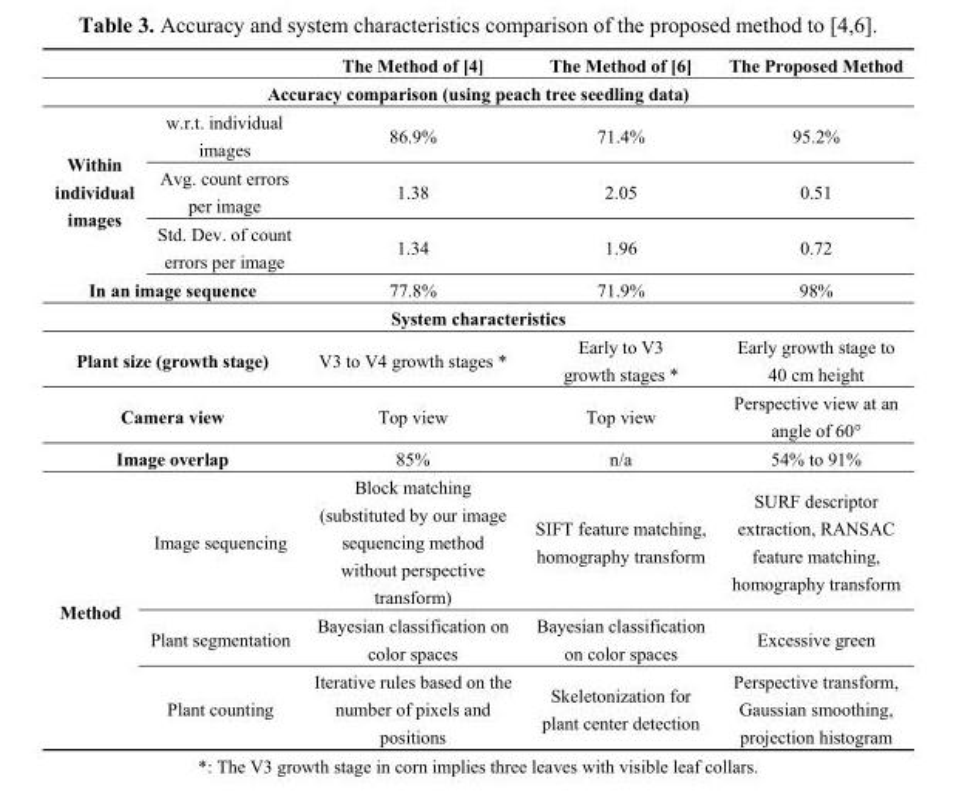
<table><thead><tr><td></td><td></td><td>The Method of [4]</td><td>The Method of [6]</td><td>The Proposed Method</td></tr></thead><tbody><tr><td colspan="5">Accuracy comparison (using peach tree seedling data)</td></tr><tr><td rowspan="3">Within individual images</td><td>w.r.t. individual images</td><td>86.9%</td><td>71.4%</td><td>95.2%</td></tr><tr><td>Avg. count errors per image</td><td>1.38</td><td>2.05</td><td>0.51</td></tr><tr><td>Std. Dev. of count errors per image</td><td>1.34</td><td>1.96</td><td>0.72</td></tr><tr><td colspan="2">In an image sequence</td><td>77.8%</td><td>71.9%</td><td>98%</td></tr><tr><td colspan="5">System characteristics</td></tr><tr><td colspan="2">Plant size (growth stage)</td><td>V3 to V4 growth stages *</td><td>Early to V3 growth stages *</td><td>Early growth stage to 40 cm height</td></tr><tr><td colspan="2">Camera view</td><td>Top view</td><td>Top view</td><td>Perspective view at an angle of 60°</td></tr><tr><td colspan="2">Image overlap</td><td>85%</td><td>n/a</td><td>54% to 91%</td></tr><tr><td rowspan="3">Method</td><td>Image sequencing</td><td>Block matching (substituted by our image sequencing method without perspective transform)</td><td>SIFT feature matching, homography transform</td><td>SURF descriptor extraction, RANSAC feature matching, homography transform</td></tr><tr><td>Plant segmentation</td><td>Bayesian classification on color spaces</td><td>Bayesian classification on color spaces</td><td>Excessive green</td></tr><tr><td>Plant counting</td><td>Iterative rules based on the number of pixels and positions</td><td>Skeletonization for plant center detection</td><td>Perspective transform, Gaussian smoothing, projection histogram</td></tr></tbody></table>